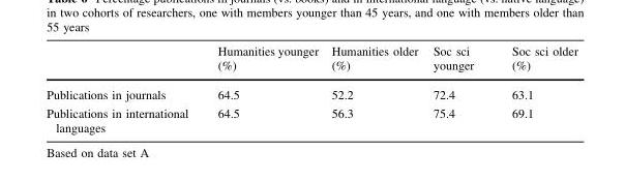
<table><thead><tr><td></td><td>Humanities younger (%)</td><td>Humanities older (%)</td><td>Soc sci younger</td><td>Soc sci older (%)</td></tr></thead><tbody><tr><td>Publications in journals</td><td>64.5</td><td>52.2</td><td>72.4</td><td>63.1</td></tr><tr><td>Publications in international languages</td><td>64.5</td><td>56.3</td><td>75.4</td><td>69.1</td></tr></tbody></table>